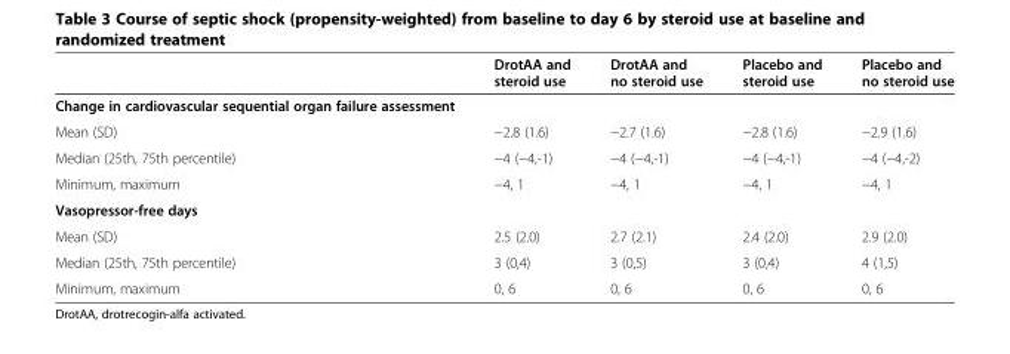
<table><thead><tr><td></td><td>DrotAA and steroid use</td><td>DrotAA and no steroid use</td><td>Placebo and steroid use</td><td>Placebo and no steroid use</td></tr></thead><tbody><tr><td colspan="5">Change in cardiovascular sequential organ failure assessment</td></tr><tr><td>Mean (SD)</td><td>−2.8 (1.6)</td><td>−2.7 (1.6)</td><td>−2.8 (1.6)</td><td>−2.9 (1.6)</td></tr><tr><td>Median (25th, 75th percentile)</td><td>−4 (−4,-1)</td><td>−4 (−4,-1)</td><td>−4 (−4,-1)</td><td>−4 (−4,-2)</td></tr><tr><td>Minimum, maximum</td><td>−4, 1</td><td>−4, 1</td><td>−4, 1</td><td>−4, 1</td></tr><tr><td colspan="5">Vasopressor-free days</td></tr><tr><td>Mean (SD)</td><td>2.5 (2.0)</td><td>2.7 (2.1)</td><td>2.4 (2.0)</td><td>2.9 (2.0)</td></tr><tr><td>Median (25th, 75th percentile)</td><td>3 (0,4)</td><td>3 (0,5)</td><td>3 (0,4)</td><td>4 (1,5)</td></tr><tr><td>Minimum, maximum</td><td>0, 6</td><td>0, 6</td><td>0, 6</td><td>0, 6</td></tr></tbody></table>